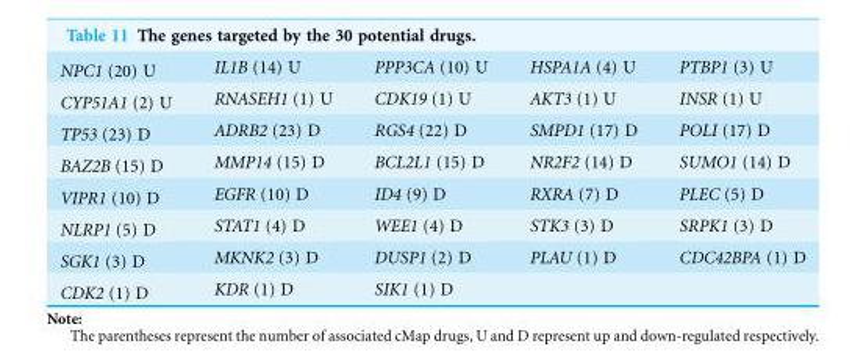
<table><tbody><tr><td>NPC1 (20) U</td><td>IL1B (14) U</td><td>PPP3CA (10) U</td><td>HSPA1A (4) U</td><td>PTBP1 (3) U</td></tr><tr><td>CYP51A1 (2) U</td><td>RNASEH1 (1) U</td><td>CDK19 (1) U</td><td>AKT3 (1) U</td><td>INSR (1) U</td></tr><tr><td>TP53 (23) D</td><td>ADRB2 (23) D</td><td>RGS4 (22) D</td><td>SMPD1 (17) D</td><td>POLI (17) D</td></tr><tr><td>BAZ2B (15) D</td><td>MMP14 (15) D</td><td>BCL2L1 (15) D</td><td>NR2F2 (14) D</td><td>SUMO1 (14) D</td></tr><tr><td>VIPR1 (10) D</td><td>EGFR (10) D</td><td>ID4 (9) D</td><td>RXRA (7) D</td><td>PLEC (5) D</td></tr><tr><td>NLRP1 (5) D</td><td>STAT1 (4) D</td><td>WEE1 (4) D</td><td>STK3 (3) D</td><td>SRPK1 (3) D</td></tr><tr><td>SGK1 (3) D</td><td>MKNK2 (3) D</td><td>DUSP1 (2) D</td><td>PLAU (1) D</td><td>CDC42BPA (1) D</td></tr><tr><td>CDK2 (1) D</td><td>KDR (1) D</td><td>SIK1 (1) D</td><td></td><td></td></tr></tbody></table>